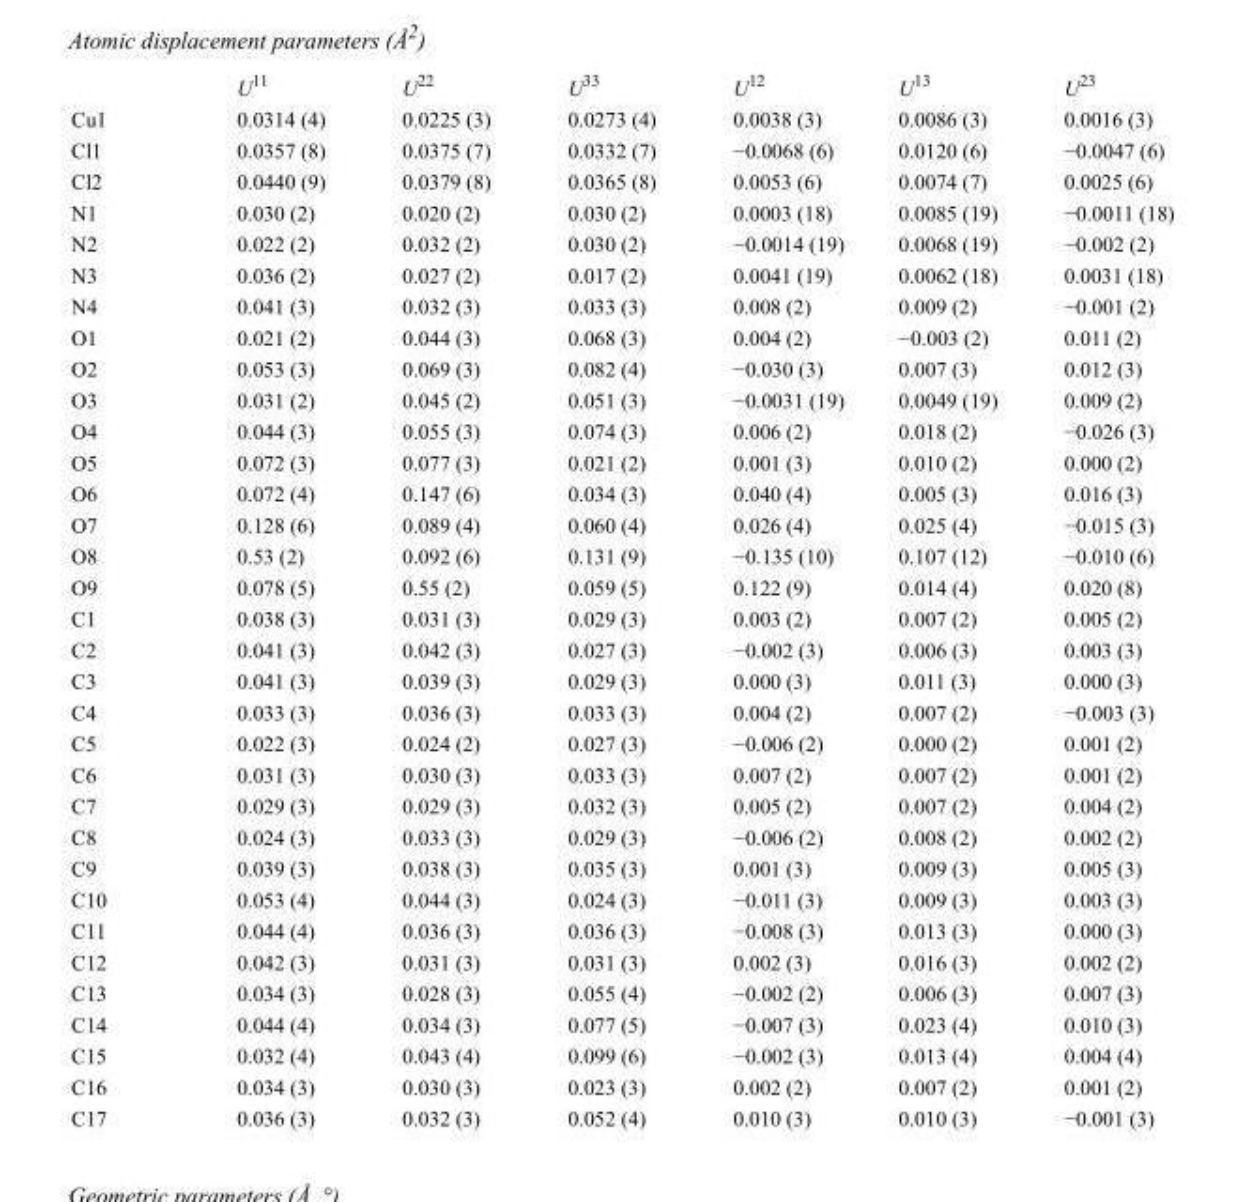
<table><thead><tr><td></td><td>U<sup>11</sup></td><td>U<sup>22</sup></td><td>U<sup>33</sup></td><td>U<sup>12</sup></td><td>U<sup>13</sup></td><td>U<sup>23</sup></td></tr></thead><tbody><tr><td>Cu1</td><td>0.0314 (4)</td><td>0.0225 (3)</td><td>0.0273 (4)</td><td>0.0038 (3)</td><td>0.0086 (3)</td><td>0.0016 (3)</td></tr><tr><td>Cl1</td><td>0.0357 (8)</td><td>0.0375 (7)</td><td>0.0332 (7)</td><td>−0.0068 (6)</td><td>0.0120 (6)</td><td>−0.0047 (6)</td></tr><tr><td>Cl2</td><td>0.0440 (9)</td><td>0.0379 (8)</td><td>0.0365 (8)</td><td>0.0053 (6)</td><td>0.0074 (7)</td><td>0.0025 (6)</td></tr><tr><td>N1</td><td>0.030 (2)</td><td>0.020 (2)</td><td>0.030 (2)</td><td>0.0003 (18)</td><td>0.0085 (19)</td><td>−0.0011 (18)</td></tr><tr><td>N2</td><td>0.022 (2)</td><td>0.032 (2)</td><td>0.030 (2)</td><td>−0.0014 (19)</td><td>0.0068 (19)</td><td>−0.002 (2)</td></tr><tr><td>N3</td><td>0.036 (2)</td><td>0.027 (2)</td><td>0.017 (2)</td><td>0.0041 (19)</td><td>0.0062 (18)</td><td>0.0031 (18)</td></tr><tr><td>N4</td><td>0.041 (3)</td><td>0.032 (3)</td><td>0.033 (3)</td><td>0.008 (2)</td><td>0.009 (2)</td><td>−0.001 (2)</td></tr><tr><td>O1</td><td>0.021 (2)</td><td>0.044 (3)</td><td>0.068 (3)</td><td>0.004 (2)</td><td>−0.003 (2)</td><td>0.011 (2)</td></tr><tr><td>O2</td><td>0.053 (3)</td><td>0.069 (3)</td><td>0.082 (4)</td><td>−0.030 (3)</td><td>0.007 (3)</td><td>0.012 (3)</td></tr><tr><td>O3</td><td>0.031 (2)</td><td>0.045 (2)</td><td>0.051 (3)</td><td>−0.0031 (19)</td><td>0.0049 (19)</td><td>0.009 (2)</td></tr><tr><td>O4</td><td>0.044 (3)</td><td>0.055 (3)</td><td>0.074 (3)</td><td>0.006 (2)</td><td>0.018 (2)</td><td>−0.026 (3)</td></tr><tr><td>O5</td><td>0.072 (3)</td><td>0.077 (3)</td><td>0.021 (2)</td><td>0.001 (3)</td><td>0.010 (2)</td><td>0.000 (2)</td></tr><tr><td>O6</td><td>0.072 (4)</td><td>0.147 (6)</td><td>0.034 (3)</td><td>0.040 (4)</td><td>0.005 (3)</td><td>0.016 (3)</td></tr><tr><td>O7</td><td>0.128 (6)</td><td>0.089 (4)</td><td>0.060 (4)</td><td>0.026 (4)</td><td>0.025 (4)</td><td>−0.015 (3)</td></tr><tr><td>O8</td><td>0.53 (2)</td><td>0.092 (6)</td><td>0.131 (9)</td><td>−0.135 (10)</td><td>0.107 (12)</td><td>−0.010 (6)</td></tr><tr><td>O9</td><td>0.078 (5)</td><td>0.55 (2)</td><td>0.059 (5)</td><td>0.122 (9)</td><td>0.014 (4)</td><td>0.020 (8)</td></tr><tr><td>C1</td><td>0.038 (3)</td><td>0.031 (3)</td><td>0.029 (3)</td><td>0.003 (2)</td><td>0.007 (2)</td><td>0.005 (2)</td></tr><tr><td>C2</td><td>0.041 (3)</td><td>0.042 (3)</td><td>0.027 (3)</td><td>−0.002 (3)</td><td>0.006 (3)</td><td>0.003 (3)</td></tr><tr><td>C3</td><td>0.041 (3)</td><td>0.039 (3)</td><td>0.029 (3)</td><td>0.000 (3)</td><td>0.011 (3)</td><td>0.000 (3)</td></tr><tr><td>C4</td><td>0.033 (3)</td><td>0.036 (3)</td><td>0.033 (3)</td><td>0.004 (2)</td><td>0.007 (2)</td><td>−0.003 (3)</td></tr><tr><td>C5</td><td>0.022 (3)</td><td>0.024 (2)</td><td>0.027 (3)</td><td>−0.006 (2)</td><td>0.000 (2)</td><td>0.001 (2)</td></tr><tr><td>C6</td><td>0.031 (3)</td><td>0.030 (3)</td><td>0.033 (3)</td><td>0.007 (2)</td><td>0.007 (2)</td><td>0.001 (2)</td></tr><tr><td>C7</td><td>0.029 (3)</td><td>0.029 (3)</td><td>0.032 (3)</td><td>0.005 (2)</td><td>0.007 (2)</td><td>0.004 (2)</td></tr><tr><td>C8</td><td>0.024 (3)</td><td>0.033 (3)</td><td>0.029 (3)</td><td>−0.006 (2)</td><td>0.008 (2)</td><td>0.002 (2)</td></tr><tr><td>C9</td><td>0.039 (3)</td><td>0.038 (3)</td><td>0.035 (3)</td><td>0.001 (3)</td><td>0.009 (3)</td><td>0.005 (3)</td></tr><tr><td>C10</td><td>0.053 (4)</td><td>0.044 (3)</td><td>0.024 (3)</td><td>−0.011 (3)</td><td>0.009 (3)</td><td>0.003 (3)</td></tr><tr><td>C11</td><td>0.044 (4)</td><td>0.036 (3)</td><td>0.036 (3)</td><td>−0.008 (3)</td><td>0.013 (3)</td><td>0.000 (3)</td></tr><tr><td>C12</td><td>0.042 (3)</td><td>0.031 (3)</td><td>0.031 (3)</td><td>0.002 (3)</td><td>0.016 (3)</td><td>0.002 (2)</td></tr><tr><td>C13</td><td>0.034 (3)</td><td>0.028 (3)</td><td>0.055 (4)</td><td>−0.002 (2)</td><td>0.006 (3)</td><td>0.007 (3)</td></tr><tr><td>C14</td><td>0.044 (4)</td><td>0.034 (3)</td><td>0.077 (5)</td><td>−0.007 (3)</td><td>0.023 (4)</td><td>0.010 (3)</td></tr><tr><td>C15</td><td>0.032 (4)</td><td>0.043 (4)</td><td>0.099 (6)</td><td>−0.002 (3)</td><td>0.013 (4)</td><td>0.004 (4)</td></tr><tr><td>C16</td><td>0.034 (3)</td><td>0.030 (3)</td><td>0.023 (3)</td><td>0.002 (2)</td><td>0.007 (2)</td><td>0.001 (2)</td></tr><tr><td>C17</td><td>0.036 (3)</td><td>0.032 (3)</td><td>0.052 (4)</td><td>0.010 (3)</td><td>0.010 (3)</td><td>−0.001 (3)</td></tr></tbody></table>